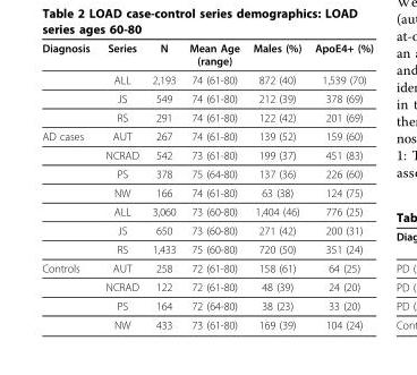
<table><thead><tr><td>Diagnosis</td><td>Series</td><td>N</td><td>Mean Age (range)</td><td>Males (%)</td><td>ApoE4+ (%)</td></tr></thead><tbody><tr><td></td><td>ALL</td><td>2,193</td><td>74 (61-80)</td><td>872 (40)</td><td>1,539 (70)</td></tr><tr><td></td><td>JS</td><td>549</td><td>74 (61-80)</td><td>212 (39)</td><td>378 (69)</td></tr><tr><td></td><td>RS</td><td>291</td><td>74 (61-80)</td><td>122 (42)</td><td>201 (69)</td></tr><tr><td rowspan="7">AD cases</td><td>AUT</td><td>267</td><td>74 (61-80)</td><td>139 (52)</td><td>159 (60)</td></tr><tr><td>NCRAD</td><td>542</td><td>73 (61-80)</td><td>199 (37)</td><td>451 (83)</td></tr><tr><td>PS</td><td>378</td><td>75 (64-80)</td><td>137 (36)</td><td>226 (60)</td></tr><tr><td>NW</td><td>166</td><td>74 (61-80)</td><td>63 (38)</td><td>124 (75)</td></tr><tr><td>ALL</td><td>3,060</td><td>73 (60-80)</td><td>1,404 (46)</td><td>776 (25)</td></tr><tr><td>JS</td><td>650</td><td>73 (60-80)</td><td>271 (42)</td><td>200 (31)</td></tr><tr><td>RS</td><td>1,433</td><td>75 (60-80)</td><td>720 (50)</td><td>351 (24)</td></tr><tr><td rowspan="4">Controls</td><td>AUT</td><td>258</td><td>72 (61-80)</td><td>158 (61)</td><td>64 (25)</td></tr><tr><td>NCRAD</td><td>122</td><td>72 (61-80)</td><td>48 (39)</td><td>24 (20)</td></tr><tr><td>PS</td><td>164</td><td>72 (64-80)</td><td>38 (23)</td><td>33 (20)</td></tr><tr><td>NW</td><td>433</td><td>73 (61-80)</td><td>169 (39)</td><td>104 (24)</td></tr></tbody></table>